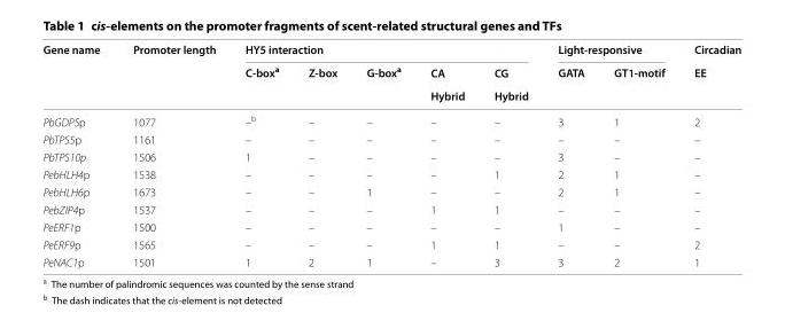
<table><thead><tr><td rowspan="3">Gene name</td><td rowspan="3">Promoter length</td><td colspan="5">HY5 interaction</td><td colspan="2">Light‑responsive</td><td rowspan="3">Circadian EE</td></tr><tr><td rowspan="2">C‑box<sup>a</sup></td><td rowspan="2">Z‑box</td><td rowspan="2">G‑box<sup>a</sup></td><td rowspan="2">CA Hybrid</td><td rowspan="2">CG Hybrid</td><td rowspan="2">GATA</td><td rowspan="2">GT1‑motif</td></tr><tr></tr></thead><tbody><tr><td>PbGDPSp</td><td>1077</td><td>–<sup>b</sup></td><td>–</td><td>–</td><td>–</td><td>–</td><td>3</td><td>1</td><td>2</td></tr><tr><td>PbTPS5p</td><td>1161</td><td>–</td><td>–</td><td>–</td><td>–</td><td>–</td><td>–</td><td>–</td><td>–</td></tr><tr><td>PbTPS10p</td><td>1506</td><td>1</td><td>–</td><td>–</td><td>–</td><td>–</td><td>3</td><td>–</td><td>–</td></tr><tr><td>PebHLH4p</td><td>1538</td><td>–</td><td>–</td><td>–</td><td>–</td><td>1</td><td>2</td><td>1</td><td>–</td></tr><tr><td>PebHLH6p</td><td>1673</td><td>–</td><td>–</td><td>1</td><td>–</td><td>–</td><td>2</td><td>1</td><td>–</td></tr><tr><td>PebZIP4p</td><td>1537</td><td>–</td><td>–</td><td>–</td><td>1</td><td>1</td><td>–</td><td>–</td><td>–</td></tr><tr><td>PeERF1p</td><td>1500</td><td>–</td><td>–</td><td>–</td><td>–</td><td>–</td><td>1</td><td>–</td><td>–</td></tr><tr><td>PeERF9p</td><td>1565</td><td>–</td><td>–</td><td>–</td><td>1</td><td>1</td><td>–</td><td>–</td><td>2</td></tr><tr><td>PeNAC1p</td><td>1501</td><td>1</td><td>2</td><td>1</td><td>–</td><td>3</td><td>3</td><td>2</td><td>1</td></tr></tbody></table>